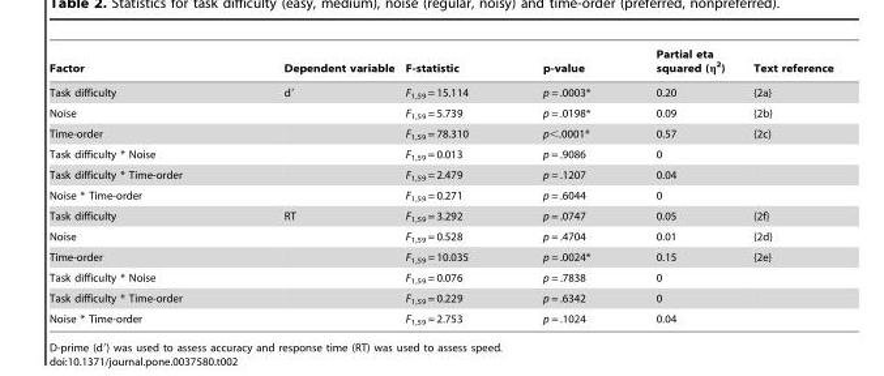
<table><thead><tr><td>Factor</td><td>Dependent variable</td><td>F-statistic</td><td>p-value</td><td>Partial eta squared (η<sup>2</sup>)</td><td>Text reference</td></tr></thead><tbody><tr><td>Task difficulty</td><td>d′</td><td>F<sub>1,59</sub> = 15.114</td><td>p = .0003*</td><td>0.20</td><td>{2a}</td></tr><tr><td>Noise</td><td></td><td>F<sub>1,59</sub> = 5.739</td><td>p = .0198*</td><td>0.09</td><td>{2b}</td></tr><tr><td>Time-order</td><td></td><td>F<sub>1,59</sub> = 78.310</td><td>p&lt;.0001*</td><td>0.57</td><td>{2c}</td></tr><tr><td>Task difficulty * Noise</td><td></td><td>F<sub>1,59</sub> = 0.013</td><td>p = .9086</td><td>0</td><td></td></tr><tr><td>Task difficulty * Time-order</td><td></td><td>F<sub>1,59</sub> = 2.479</td><td>p = .1207</td><td>0.04</td><td></td></tr><tr><td>Noise * Time-order</td><td></td><td>F<sub>1,59</sub> = 0.271</td><td>p = .6044</td><td>0</td><td></td></tr><tr><td>Task difficulty</td><td>RT</td><td>F<sub>1,59</sub> = 3.292</td><td>p = .0747</td><td>0.05</td><td>{2f}</td></tr><tr><td>Noise</td><td></td><td>F<sub>1,59</sub> = 0.528</td><td>p = .4704</td><td>0.01</td><td>{2d}</td></tr><tr><td>Time-order</td><td></td><td>F<sub>1,59</sub> = 10.035</td><td>p = .0024*</td><td>0.15</td><td>{2e}</td></tr><tr><td>Task difficulty * Noise</td><td></td><td>F<sub>1,59</sub> = 0.076</td><td>p = .7838</td><td>0</td><td></td></tr><tr><td>Task difficulty * Time-order</td><td></td><td>F<sub>1,59</sub> = 0.229</td><td>p = .6342</td><td>0</td><td></td></tr><tr><td>Noise * Time-order</td><td></td><td>F<sub>1,59</sub> = 2.753</td><td>p = .1024</td><td>0.04</td><td></td></tr></tbody></table>